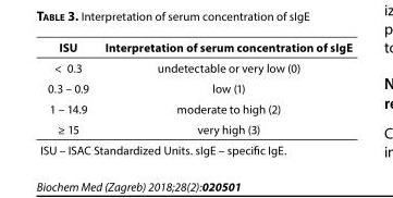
<table><thead><tr><td>ISU</td><td>Interpretation of serum concentration of sIgE</td></tr></thead><tbody><tr><td>&lt; 0.3</td><td>undetectable or very low (0)</td></tr><tr><td>0.3 – 0.9</td><td>low (1)</td></tr><tr><td>1 – 14.9</td><td>moderate to high (2)</td></tr><tr><td>≥ 15</td><td>very high (3)</td></tr><tr><td colspan="2">ISU – ISAC Standardized Units. sIgE – specific IgE.</td></tr></tbody></table>